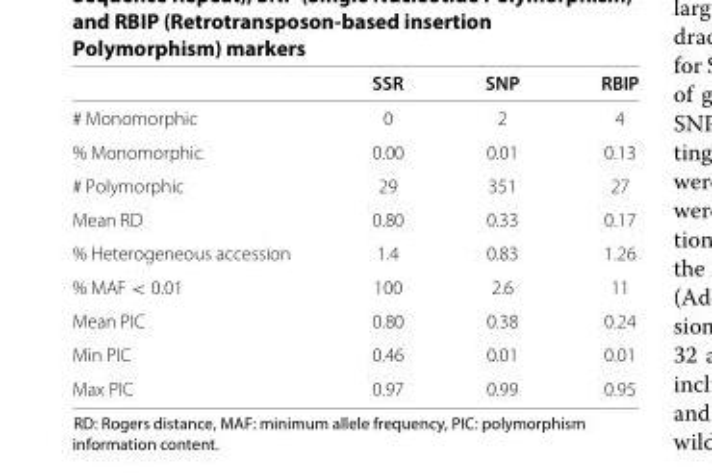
<table><thead><tr><td></td><td>SSR</td><td>SNP</td><td>RBIP</td></tr></thead><tbody><tr><td># Monomorphic</td><td>0</td><td>2</td><td>4</td></tr><tr><td>% Monomorphic</td><td>0.00</td><td>0.01</td><td>0.13</td></tr><tr><td># Polymorphic</td><td>29</td><td>351</td><td>27</td></tr><tr><td>Mean RD</td><td>0.80</td><td>0.33</td><td>0.17</td></tr><tr><td>% Heterogeneous accession</td><td>1.4</td><td>0.83</td><td>1.26</td></tr><tr><td>% MAF &lt; 0.01</td><td>100</td><td>2.6</td><td>11</td></tr><tr><td>Mean PIC</td><td>0.80</td><td>0.38</td><td>0.24</td></tr><tr><td>Min PIC</td><td>0.46</td><td>0.01</td><td>0.01</td></tr><tr><td>Max PIC</td><td>0.97</td><td>0.99</td><td>0.95</td></tr></tbody></table>